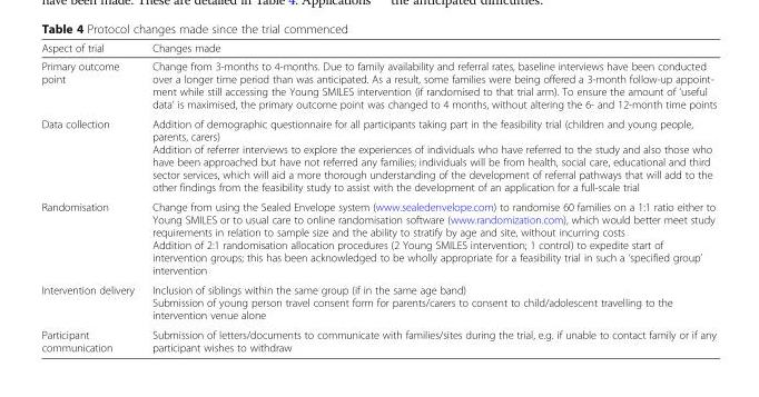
<table><thead><tr><td>Aspect of trial</td><td>Changes made</td></tr></thead><tbody><tr><td>Primary outcome point</td><td>Change from 3-months to 4-months. Due to family availability and referral rates, baseline interviews have been conducted over a longer time period than was anticipated. As a result, some families were being offered a 3-month follow-up appoint- ment while still accessing the Young SMILES intervention (if randomised to that trial arm). To ensure the amount of ‘useful data’ is maximised, the primary outcome point was changed to 4 months, without altering the 6- and 12-month time points</td></tr><tr><td>Data collection</td><td>Addition of demographic questionnaire for all participants taking part in the feasibility trial (children and young people, parents, carers) Addition of referrer interviews to explore the experiences of individuals who have referred to the study and also those who have been approached but have not referred any families; individuals will be from health, social care, educational and third sector services, which will aid a more thorough understanding of the development of referral pathways that will add to the other findings from the feasibility study to assist with the development of an application for a full-scale trial</td></tr><tr><td>Randomisation</td><td>Change from using the Sealed Envelope system (www.sealedenvelope.com) to randomise 60 families on a 1:1 ratio either to Young SMILES or to usual care to online randomisation software (www.randomization.com), which would better meet study requirements in relation to sample size and the ability to stratify by age and site, without incurring costs Addition of 2:1 randomisation allocation procedures (2 Young SMILES intervention; 1 control) to expedite start of intervention groups; this has been acknowledged to be wholly appropriate for a feasibility trial in such a ‘specified group’ intervention</td></tr><tr><td>Intervention delivery</td><td>Inclusion of siblings within the same group (if in the same age band) Submission of young person travel consent form for parents/carers to consent to child/adolescent travelling to the intervention venue alone</td></tr><tr><td>Participant communication</td><td>Submission of letters/documents to communicate with families/sites during the trial, e.g. if unable to contact family or if any participant wishes to withdraw</td></tr></tbody></table>